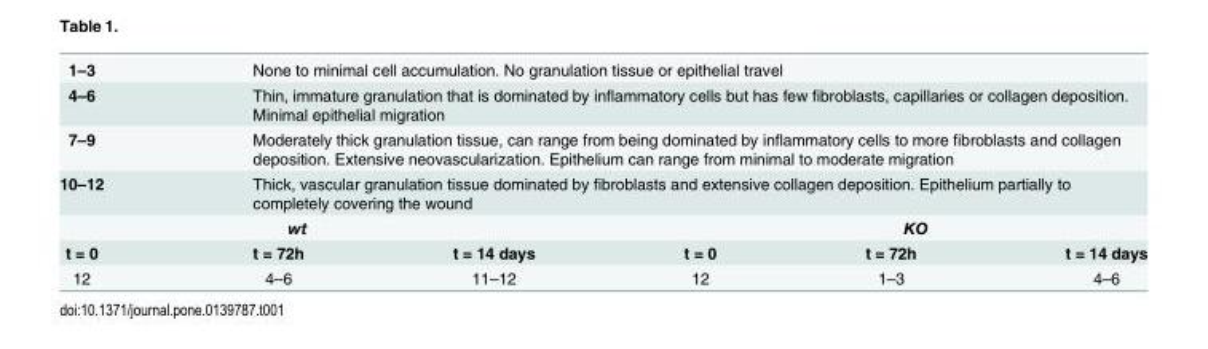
<table><tbody><tr><td>1–3</td><td colspan="5">None to minimal cell accumulation. No granulation tissue or epithelial travel</td></tr><tr><td>4–6</td><td colspan="5">Thin, immature granulation that is dominated by inflammatory cells but has few fibroblasts, capillaries or collagen deposition. Minimal epithelial migration</td></tr><tr><td>7–9</td><td colspan="5">Moderately thick granulation tissue, can range from being dominated by inflammatory cells to more fibroblasts and collagen deposition. Extensive neovascularization. Epithelium can range from minimal to moderate migration</td></tr><tr><td>10–12</td><td colspan="5">Thick, vascular granulation tissue dominated by fibroblasts and extensive collagen deposition. Epithelium partially to completely covering the wound</td></tr><tr><td colspan="3">wt</td><td colspan="3">KO</td></tr><tr><td>t = 0</td><td>t = 72h</td><td>t = 14 days</td><td>t = 0</td><td>t = 72h</td><td>t = 14 days</td></tr><tr><td>12</td><td>4–6</td><td>11–12</td><td>12</td><td>1–3</td><td>4–6</td></tr></tbody></table>